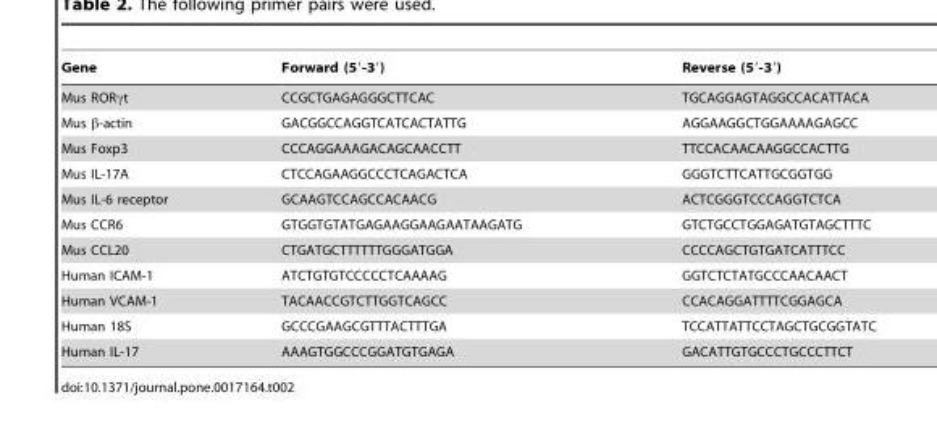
<table><thead><tr><td>Gene</td><td>Forward (5′-3′)</td><td>Reverse (5′-3′)</td></tr></thead><tbody><tr><td>Mus RORγt</td><td>CCGCTGAGAGGGCTTCAC</td><td>TGCAGGAGTAGGCCACATTACA</td></tr><tr><td>Mus β-actin</td><td>GACGGCCAGGTCATCACTATTG</td><td>AGGAAGGCTGGAAAAGAGCC</td></tr><tr><td>Mus Foxp3</td><td>CCCAGGAAAGACAGCAACCTT</td><td>TTCCACAACAAGGCCACTTG</td></tr><tr><td>Mus IL-17A</td><td>CTCCAGAAGGCCCTCAGACTCA</td><td>GGGTCTTCATTGCGGTGG</td></tr><tr><td>Mus IL-6 receptor</td><td>GCAAGTCCAGCCACAACG</td><td>ACTCGGGTCCCAGGTCTCA</td></tr><tr><td>Mus CCR6</td><td>GTGGTGTATGAGAAGGAAGAATAAGATG</td><td>GTCTGCCTGGAGATGTAGCTTTC</td></tr><tr><td>Mus CCL20</td><td>CTGATGCTTTTTTGGGATGGA</td><td>CCCCAGCTGTGATCATTTCC</td></tr><tr><td>Human ICAM-1</td><td>ATCTGTGTCCCCCTCAAAAG</td><td>GGTCTCTATGCCCAACAACT</td></tr><tr><td>Human VCAM-1</td><td>TACAACCGTCTTGGTCAGCC</td><td>CCACAGGATTTTCGGAGCA</td></tr><tr><td>Human 18S</td><td>GCCCGAAGCGTTTACTTTGA</td><td>TCCATTATTCCTAGCTGCGGTATC</td></tr><tr><td>Human IL-17</td><td>AAAGTGGCCCGGATGTGAGA</td><td>GACATTGTGCCCTGCCCTTCT</td></tr></tbody></table>